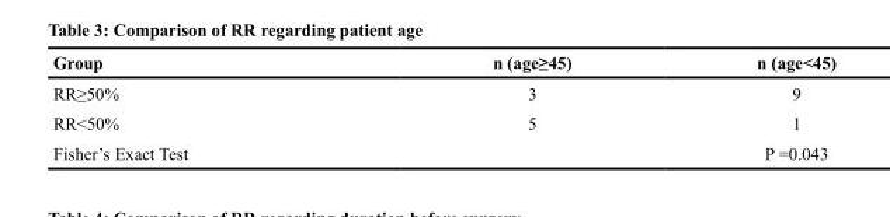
<table><thead><tr><td>Group</td><td>n (age≥45)</td><td>n (age&lt;45)</td></tr></thead><tbody><tr><td>RR≥50%</td><td>3</td><td>9</td></tr><tr><td>RR&lt;50%</td><td>5</td><td>1</td></tr><tr><td>Fisher’s Exact Test</td><td></td><td>P =0.043</td></tr></tbody></table>